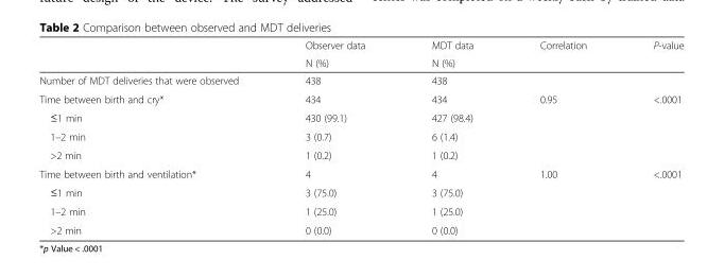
<table><thead><tr><td rowspan="2"></td><td rowspan="2">Observer data N (%)</td><td rowspan="2">MDT data N (%)</td><td rowspan="2">Correlation</td><td rowspan="2">P-value</td></tr><tr></tr></thead><tbody><tr><td>Number of MDT deliveries that were observed</td><td>438</td><td>438</td><td></td><td></td></tr><tr><td>Time between birth and cry*</td><td>434</td><td>434</td><td>0.95</td><td>&lt;.0001</td></tr><tr><td>≤1 min</td><td>430 (99.1)</td><td>427 (98.4)</td><td></td><td></td></tr><tr><td>1–2 min</td><td>3 (0.7)</td><td>6 (1.4)</td><td></td><td></td></tr><tr><td>&gt;2 min</td><td>1 (0.2)</td><td>1 (0.2)</td><td></td><td></td></tr><tr><td>Time between birth and ventilation*</td><td>4</td><td>4</td><td>1.00</td><td>&lt;.0001</td></tr><tr><td>≤1 min</td><td>3 (75.0)</td><td>3 (75.0)</td><td></td><td></td></tr><tr><td>1–2 min</td><td>1 (25.0)</td><td>1 (25.0)</td><td></td><td></td></tr><tr><td>&gt;2 min</td><td>0 (0.0)</td><td>0 (0.0)</td><td></td><td></td></tr></tbody></table>